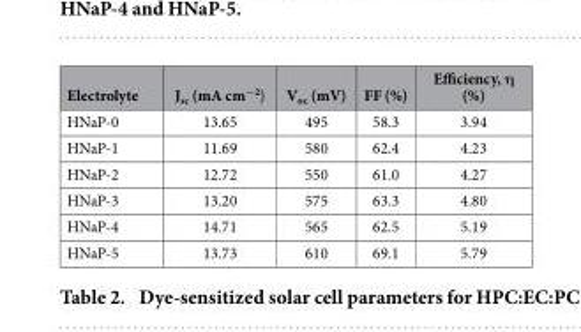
<table><thead><tr><td>Electrolyte</td><td>J<sub>sc</sub> (mA cm<sup>−2</sup>)</td><td>V<sub>oc</sub> (mV)</td><td>FF (%)</td><td>Efficiency, η (%)</td></tr></thead><tbody><tr><td>HNaP-0</td><td>13.65</td><td>495</td><td>58.3</td><td>3.94</td></tr><tr><td>HNaP-1</td><td>11.69</td><td>580</td><td>62.4</td><td>4.23</td></tr><tr><td>HNaP-2</td><td>12.72</td><td>550</td><td>61.0</td><td>4.27</td></tr><tr><td>HNaP-3</td><td>13.20</td><td>575</td><td>63.3</td><td>4.80</td></tr><tr><td>HNaP-4</td><td>14.71</td><td>565</td><td>62.5</td><td>5.19</td></tr><tr><td>HNaP-5</td><td>13.73</td><td>610</td><td>69.1</td><td>5.79</td></tr></tbody></table>